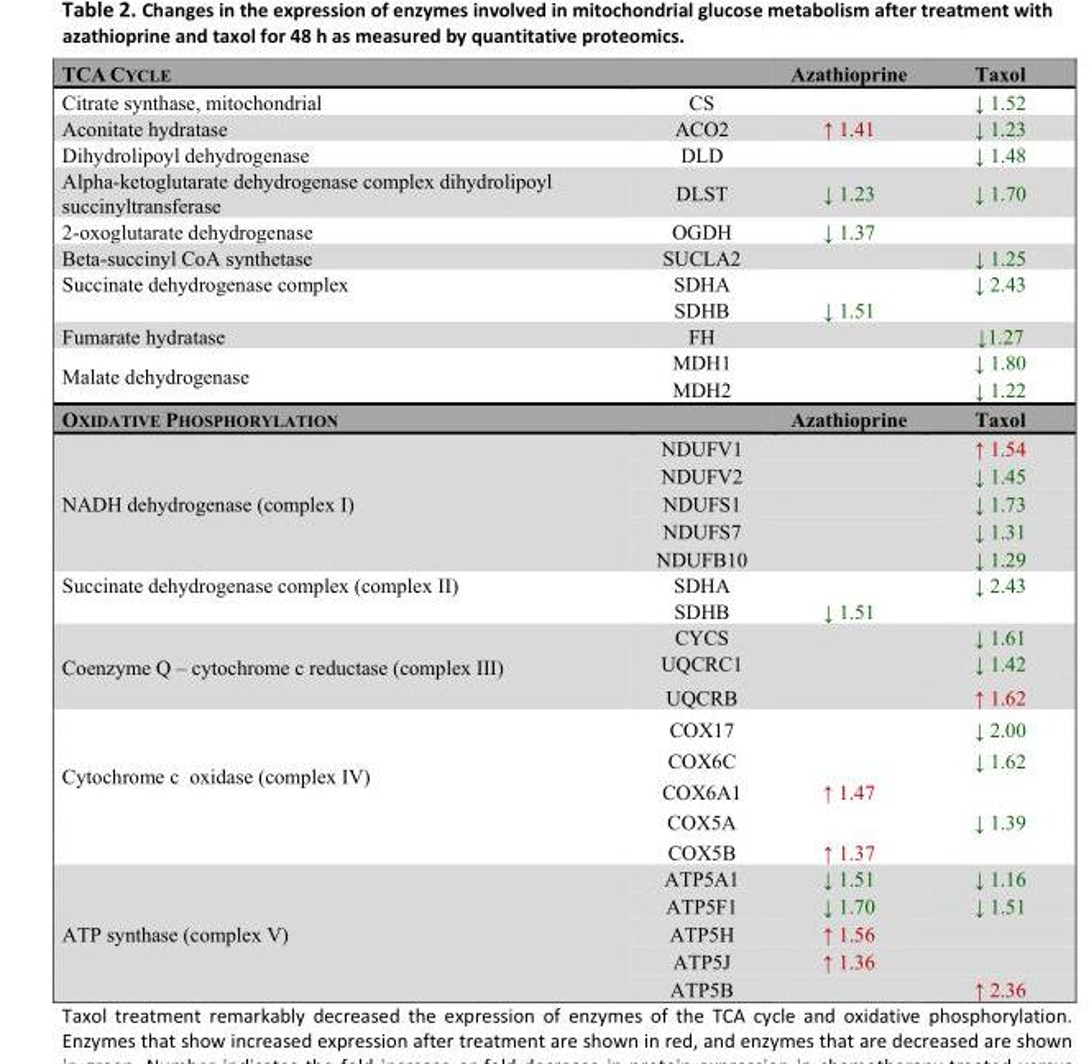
<table><tbody><tr><td>TCA CYCLE</td><td></td><td>Azathioprine</td><td>Taxol</td></tr><tr><td>Citrate synthase, mitochondrial</td><td>CS</td><td></td><td>↓ 1.52</td></tr><tr><td>Aconitate hydratase</td><td>ACO2</td><td>↑ 1.41</td><td>↓ 1.23</td></tr><tr><td>Dihydrolipoyl dehydrogenase</td><td>DLD</td><td></td><td>↓ 1.48</td></tr><tr><td>Alpha-ketoglutarate dehydrogenase complex dihydrolipoyl succinyltransferase</td><td>DLST</td><td>↓ 1.23</td><td>↓ 1.70</td></tr><tr><td>2-oxoglutarate dehydrogenase</td><td>OGDH</td><td>↓ 1.37</td><td></td></tr><tr><td>Beta-succinyl CoA synthetase</td><td>SUCLA2</td><td></td><td>↓ 1.25</td></tr><tr><td rowspan="2">Succinate dehydrogenase complex</td><td>SDHA</td><td></td><td>↓ 2.43</td></tr><tr><td>SDHB</td><td>↓ 1.51</td><td></td></tr><tr><td>Fumarate hydratase</td><td>FH</td><td></td><td>↓1.27</td></tr><tr><td rowspan="2">Malate dehydrogenase</td><td>MDH1</td><td></td><td>↓ 1.80</td></tr><tr><td>MDH2</td><td></td><td>↓ 1.22</td></tr><tr><td>OXIDATIVE PHOSPHORYLATION</td><td></td><td>Azathioprine</td><td>Taxol</td></tr><tr><td rowspan="5">NADH dehydrogenase (complex I)</td><td>NDUFV1</td><td></td><td>↑ 1.54</td></tr><tr><td>NDUFV2</td><td></td><td>↓ 1.45</td></tr><tr><td>NDUFS1</td><td></td><td>↓ 1.73</td></tr><tr><td>NDUFS7</td><td></td><td>↓ 1.31</td></tr><tr><td>NDUFB10</td><td></td><td>↓ 1.29</td></tr><tr><td rowspan="2">Succinate dehydrogenase complex (complex II)</td><td>SDHA</td><td></td><td>↓ 2.43</td></tr><tr><td>SDHB</td><td>↓ 1.51</td><td></td></tr><tr><td rowspan="3">Coenzyme Q – cytochrome c reductase (complex III)</td><td>CYCS</td><td></td><td>↓ 1.61</td></tr><tr><td>UQCRC1</td><td></td><td>↓ 1.42</td></tr><tr><td>UQCRB</td><td></td><td>↑ 1.62</td></tr><tr><td rowspan="5">Cytochrome c oxidase (complex IV)</td><td>COX17</td><td></td><td>↓ 2.00</td></tr><tr><td>COX6C</td><td></td><td>↓ 1.62</td></tr><tr><td>COX6A1</td><td>↑ 1.47</td><td></td></tr><tr><td>COX5A</td><td></td><td>↓ 1.39</td></tr><tr><td>COX5B</td><td>↑ 1.37</td><td></td></tr><tr><td rowspan="5">ATP synthase (complex V)</td><td>ATP5A1</td><td>↓ 1.51</td><td>↓ 1.16</td></tr><tr><td>ATP5F1</td><td>↓ 1.70</td><td>↓ 1.51</td></tr><tr><td>ATP5H</td><td>↑ 1.56</td><td></td></tr><tr><td>ATP5J</td><td>↑ 1.36</td><td></td></tr><tr><td>ATP5B</td><td></td><td>↑ 2.36</td></tr></tbody></table>